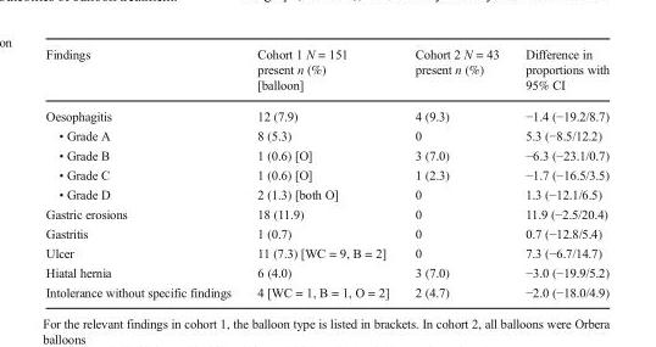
<table><thead><tr><td>Findings</td><td>Cohort 1 N = 151 present n (%) [balloon]</td><td>Cohort 2 N = 43 present n (%)</td><td>Difference in proportions with 95% CI</td></tr></thead><tbody><tr><td>Oesophagitis</td><td>12 (7.9)</td><td>4 (9.3)</td><td>−1.4 (−19.2/8.7)</td></tr><tr><td>• Grade A</td><td>8 (5.3)</td><td>0</td><td>5.3 (−8.5/12.2)</td></tr><tr><td>• Grade B</td><td>1 (0.6) [O]</td><td>3 (7.0)</td><td>−6.3 (−23.1/0.7)</td></tr><tr><td>• Grade C</td><td>1 (0.6) [O]</td><td>1 (2.3)</td><td>−1.7 (−16.5/3.5)</td></tr><tr><td>• Grade D</td><td>2 (1.3) [both O]</td><td>0</td><td>1.3 (−12.1/6.5)</td></tr><tr><td>Gastric erosions</td><td>18 (11.9)</td><td>0</td><td>11.9 (−2.5/20.4)</td></tr><tr><td>Gastritis</td><td>1 (0.7)</td><td>0</td><td>0.7 (−12.8/5.4)</td></tr><tr><td>Ulcer</td><td>11 (7.3) [WC = 9, B = 2]</td><td>0</td><td>7.3 (−6.7/14.7)</td></tr><tr><td>Hiatal hernia</td><td>6 (4.0)</td><td>3 (7.0)</td><td>−3.0 (−19.9/5.2)</td></tr><tr><td>Intolerance without specific findings</td><td>4 [WC = 1, B = 1, O = 2]</td><td>2 (4.7)</td><td>−2.0 (−18.0/4.9)</td></tr></tbody></table>